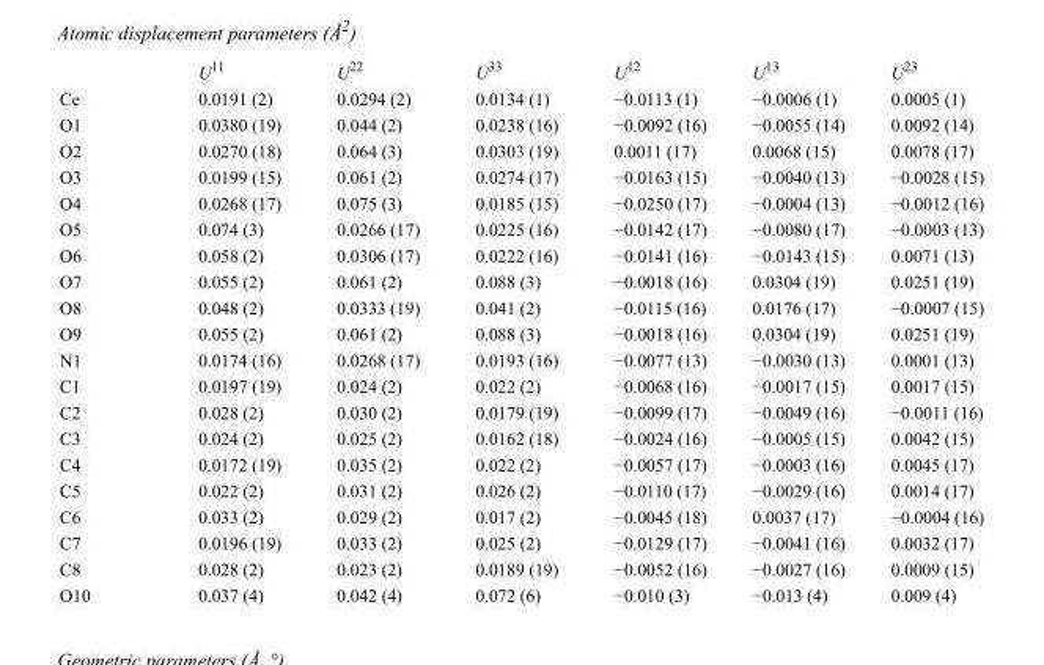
<table><thead><tr><td></td><td>U<sup>11</sup></td><td>U<sup>22</sup></td><td>U<sup>33</sup></td><td>U<sup>12</sup></td><td>U<sup>13</sup></td><td>U<sup>23</sup></td></tr></thead><tbody><tr><td>Ce</td><td>0.0191 (2)</td><td>0.0294 (2)</td><td>0.0134 (1)</td><td>−0.0113 (1)</td><td>−0.0006 (1)</td><td>0.0005 (1)</td></tr><tr><td>O1</td><td>0.0380 (19)</td><td>0.044 (2)</td><td>0.0238 (16)</td><td>−0.0092 (16)</td><td>−0.0055 (14)</td><td>0.0092 (14)</td></tr><tr><td>O2</td><td>0.0270 (18)</td><td>0.064 (3)</td><td>0.0303 (19)</td><td>0.0011 (17)</td><td>0.0068 (15)</td><td>0.0078 (17)</td></tr><tr><td>O3</td><td>0.0199 (15)</td><td>0.061 (2)</td><td>0.0274 (17)</td><td>−0.0163 (15)</td><td>−0.0040 (13)</td><td>−0.0028 (15)</td></tr><tr><td>O4</td><td>0.0268 (17)</td><td>0.075 (3)</td><td>0.0185 (15)</td><td>−0.0250 (17)</td><td>−0.0004 (13)</td><td>−0.0012 (16)</td></tr><tr><td>O5</td><td>0.074 (3)</td><td>0.0266 (17)</td><td>0.0225 (16)</td><td>−0.0142 (17)</td><td>−0.0080 (17)</td><td>−0.0003 (13)</td></tr><tr><td>O6</td><td>0.058 (2)</td><td>0.0306 (17)</td><td>0.0222 (16)</td><td>−0.0141 (16)</td><td>−0.0143 (15)</td><td>0.0071 (13)</td></tr><tr><td>O7</td><td>0.055 (2)</td><td>0.061 (2)</td><td>0.088 (3)</td><td>−0.0018 (16)</td><td>0.0304 (19)</td><td>0.0251 (19)</td></tr><tr><td>O8</td><td>0.048 (2)</td><td>0.0333 (19)</td><td>0.041 (2)</td><td>−0.0115 (16)</td><td>0.0176 (17)</td><td>−0.0007 (15)</td></tr><tr><td>O9</td><td>0.055 (2)</td><td>0.061 (2)</td><td>0.088 (3)</td><td>−0.0018 (16)</td><td>0.0304 (19)</td><td>0.0251 (19)</td></tr><tr><td>N1</td><td>0.0174 (16)</td><td>0.0268 (17)</td><td>0.0193 (16)</td><td>−0.0077 (13)</td><td>−0.0030 (13)</td><td>0.0001 (13)</td></tr><tr><td>C1</td><td>0.0197 (19)</td><td>0.024 (2)</td><td>0.022 (2)</td><td>−0.0068 (16)</td><td>−0.0017 (15)</td><td>0.0017 (15)</td></tr><tr><td>C2</td><td>0.028 (2)</td><td>0.030 (2)</td><td>0.0179 (19)</td><td>−0.0099 (17)</td><td>−0.0049 (16)</td><td>−0.0011 (16)</td></tr><tr><td>C3</td><td>0.024 (2)</td><td>0.025 (2)</td><td>0.0162 (18)</td><td>−0.0024 (16)</td><td>−0.0005 (15)</td><td>0.0042 (15)</td></tr><tr><td>C4</td><td>0.0172 (19)</td><td>0.035 (2)</td><td>0.022 (2)</td><td>−0.0057 (17)</td><td>−0.0003 (16)</td><td>0.0045 (17)</td></tr><tr><td>C5</td><td>0.022 (2)</td><td>0.031 (2)</td><td>0.026 (2)</td><td>−0.0110 (17)</td><td>−0.0029 (16)</td><td>0.0014 (17)</td></tr><tr><td>C6</td><td>0.033 (2)</td><td>0.029 (2)</td><td>0.017 (2)</td><td>−0.0045 (18)</td><td>0.0037 (17)</td><td>−0.0004 (16)</td></tr><tr><td>C7</td><td>0.0196 (19)</td><td>0.033 (2)</td><td>0.025 (2)</td><td>−0.0129 (17)</td><td>−0.0041 (16)</td><td>0.0032 (17)</td></tr><tr><td>C8</td><td>0.028 (2)</td><td>0.023 (2)</td><td>0.0189 (19)</td><td>−0.0052 (16)</td><td>−0.0027 (16)</td><td>0.0009 (15)</td></tr><tr><td>O10</td><td>0.037 (4)</td><td>0.042 (4)</td><td>0.072 (6)</td><td>−0.010 (3)</td><td>−0.013 (4)</td><td>0.009 (4)</td></tr></tbody></table>